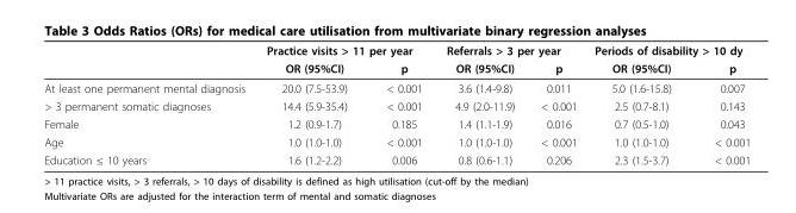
<table><thead><tr><td rowspan="2"></td><td colspan="2">Practice visits &gt; 11 per year</td><td colspan="2">Referrals &gt; 3 per year</td><td colspan="2">Periods of disability &gt; 10 dy</td></tr><tr><td>OR (95%CI)</td><td>p</td><td>OR (95%CI)</td><td>p</td><td>OR (95%CI)</td><td>p</td></tr></thead><tbody><tr><td>At least one permanent mental diagnosis</td><td>20.0 (7.5-53.9)</td><td>&lt; 0.001</td><td>3.6 (1.4-9.8)</td><td>0.011</td><td>5.0 (1.6-15.8)</td><td>0.007</td></tr><tr><td>&gt; 3 permanent somatic diagnoses</td><td>14.4 (5.9-35.4)</td><td>&lt; 0.001</td><td>4.9 (2.0-11.9)</td><td>&lt; 0.001</td><td>2.5 (0.7-8.1)</td><td>0.143</td></tr><tr><td>Female</td><td>1.2 (0.9-1.7)</td><td>0.185</td><td>1.4 (1.1-1.9)</td><td>0.016</td><td>0.7 (0.5-1.0)</td><td>0.043</td></tr><tr><td>Age</td><td>1.0 (1.0-1.0)</td><td>&lt; 0.001</td><td>1.0 (1.0-1.0)</td><td>&lt; 0.001</td><td>1.0 (1.0-1.0)</td><td>&lt; 0.001</td></tr><tr><td>Education ≤ 10 years</td><td>1.6 (1.2-2.2)</td><td>0.006</td><td>0.8 (0.6-1.1)</td><td>0.206</td><td>2.3 (1.5-3.7)</td><td>&lt; 0.001</td></tr></tbody></table>